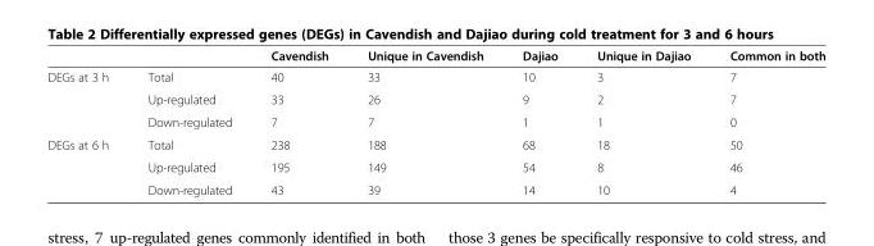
<table><thead><tr><td></td><td></td><td>Cavendish</td><td>Unique in Cavendish</td><td>Dajiao</td><td>Unique in Dajiao</td><td>Common in both</td></tr></thead><tbody><tr><td rowspan="3">DEGs at 3 h</td><td>Total</td><td>40</td><td>33</td><td>10</td><td>3</td><td>7</td></tr><tr><td>Up-regulated</td><td>33</td><td>26</td><td>9</td><td>2</td><td>7</td></tr><tr><td>Down-regulated</td><td>7</td><td>7</td><td>1</td><td>1</td><td>0</td></tr><tr><td rowspan="3">DEGs at 6 h</td><td>Total</td><td>238</td><td>188</td><td>68</td><td>18</td><td>50</td></tr><tr><td>Up-regulated</td><td>195</td><td>149</td><td>54</td><td>8</td><td>46</td></tr><tr><td>Down-regulated</td><td>43</td><td>39</td><td>14</td><td>10</td><td>4</td></tr></tbody></table>